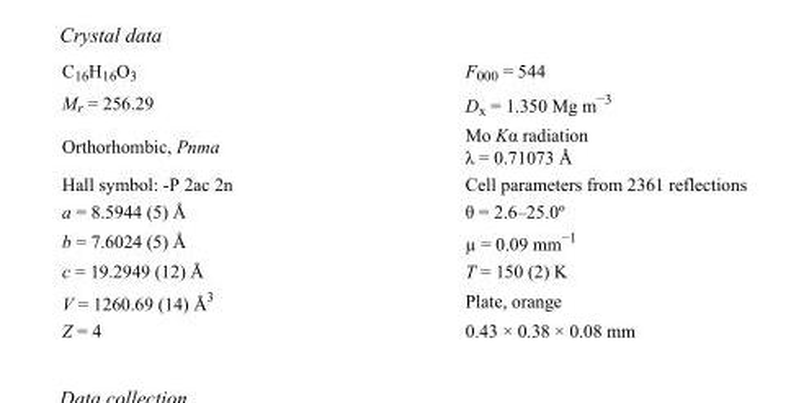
<table><tbody><tr><td>C<sub>16</sub>H<sub>16</sub>O<sub>3</sub></td><td>F<sub>000</sub> = 544</td></tr><tr><td>M<sub>r</sub> = 256.29</td><td>D<sub>x</sub> = 1.350 Mg m<sup>−3</sup></td></tr><tr><td>Orthorhombic, Pnma</td><td>Mo Kα radiation λ = 0.71073 Å</td></tr><tr><td>Hall symbol: -P 2ac 2n</td><td>Cell parameters from 2361 reflections</td></tr><tr><td>a = 8.5944 (5) Å</td><td>θ = 2.6–25.0º</td></tr><tr><td>b = 7.6024 (5) Å</td><td>µ = 0.09 mm<sup>−1</sup></td></tr><tr><td>c = 19.2949 (12) Å</td><td>T = 150 (2) K</td></tr><tr><td>V = 1260.69 (14) Å<sup>3</sup></td><td>Plate, orange</td></tr><tr><td>Z = 4</td><td>0.43 × 0.38 × 0.08 mm</td></tr></tbody></table>